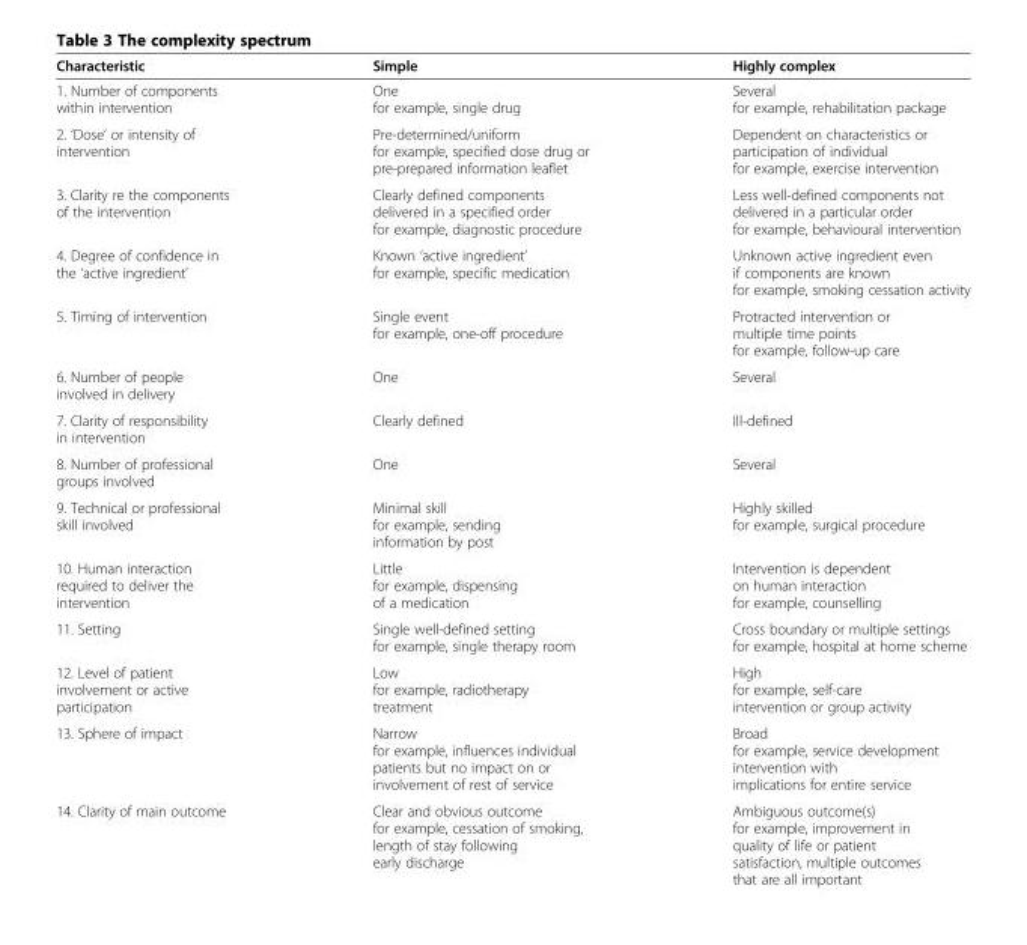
<table><thead><tr><td>Characteristic</td><td>Simple</td><td>Highly complex</td></tr></thead><tbody><tr><td>1. Number of components within intervention</td><td>One for example, single drug</td><td>Several for example, rehabilitation package</td></tr><tr><td>2. ‘Dose’ or intensity of intervention</td><td>Pre-determined/uniform for example, specified dose drug or pre-prepared information leaflet</td><td>Dependent on characteristics or participation of individual for example, exercise intervention</td></tr><tr><td>3. Clarity re the components of the intervention</td><td>Clearly defined components delivered in a specified order for example, diagnostic procedure</td><td>Less well-defined components not delivered in a particular order for example, behavioural intervention</td></tr><tr><td>4. Degree of confidence in the ‘active ingredient’</td><td>Known ‘active ingredient’ for example, specific medication</td><td>Unknown active ingredient even if components are known for example, smoking cessation activity</td></tr><tr><td>5. Timing of intervention</td><td>Single event for example, one-off procedure</td><td>Protracted intervention or multiple time points for example, follow-up care</td></tr><tr><td>6. Number of people involved in delivery</td><td>One</td><td>Several</td></tr><tr><td>7. Clarity of responsibility in intervention</td><td>Clearly defined</td><td>Ill-defined</td></tr><tr><td>8. Number of professional groups involved</td><td>One</td><td>Several</td></tr><tr><td>9. Technical or professional skill involved</td><td>Minimal skill for example, sending information by post</td><td>Highly skilled for example, surgical procedure</td></tr><tr><td>10. Human interaction required to deliver the intervention</td><td>Little for example, dispensing of a medication</td><td>Intervention is dependent on human interaction for example, counselling</td></tr><tr><td>11. Setting</td><td>Single well-defined setting for example, single therapy room</td><td>Cross boundary or multiple settings for example, hospital at home scheme</td></tr><tr><td>12. Level of patient involvement or active participation</td><td>Low for example, radiotherapy treatment</td><td>High for example, self-care intervention or group activity</td></tr><tr><td>13. Sphere of impact</td><td>Narrow for example, influences individual patients but no impact on or involvement of rest of service</td><td>Broad for example, service development intervention with implications for entire service</td></tr><tr><td>14. Clarity of main outcome</td><td>Clear and obvious outcome for example, cessation of smoking, length of stay following early discharge</td><td>Ambiguous outcome(s) for example, improvement in quality of life or patient satisfaction, multiple outcomes that are all important</td></tr></tbody></table>